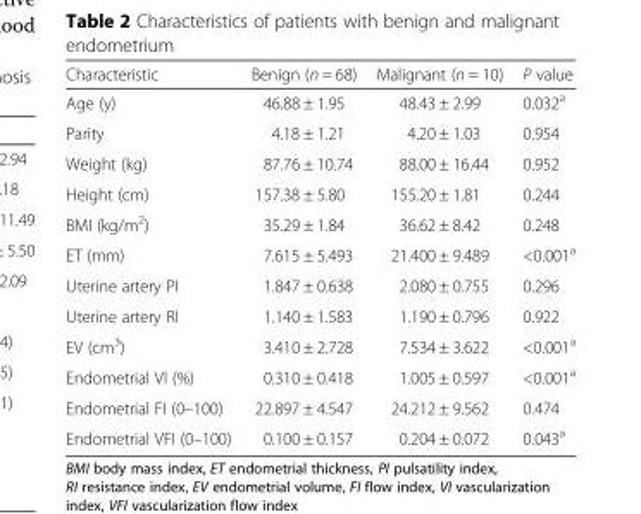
<table><thead><tr><td>Characteristic</td><td>Benign (n = 68)</td><td>Malignant (n = 10)</td><td>P value</td></tr></thead><tbody><tr><td>Age (y)</td><td>46.88 ± 1.95</td><td>48.43 ± 2.99</td><td>0.032<sup>a</sup></td></tr><tr><td>Parity</td><td>4.18 ± 1.21</td><td>4.20 ± 1.03</td><td>0.954</td></tr><tr><td>Weight (kg)</td><td>87.76 ± 10.74</td><td>88.00 ± 16.44</td><td>0.952</td></tr><tr><td>Height (cm)</td><td>157.38 ± 5.80</td><td>155.20 ± 1.81</td><td>0.244</td></tr><tr><td>BMI (kg/m<sup>2</sup>)</td><td>35.29 ± 1.84</td><td>36.62 ± 8.42</td><td>0.248</td></tr><tr><td>ET (mm)</td><td>7.615 ± 5.493</td><td>21.400 ± 9.489</td><td>&lt;0.001<sup>a</sup></td></tr><tr><td>Uterine artery PI</td><td>1.847 ± 0.638</td><td>2.080 ± 0.755</td><td>0.296</td></tr><tr><td>Uterine artery RI</td><td>1.140 ± 1.583</td><td>1.190 ± 0.796</td><td>0.922</td></tr><tr><td>EV (cm<sup>3</sup>)</td><td>3.410 ± 2.728</td><td>7.534 ± 3.622</td><td>&lt;0.001<sup>a</sup></td></tr><tr><td>Endometrial VI (%)</td><td>0.310 ± 0.418</td><td>1.005 ± 0.597</td><td>&lt;0.001<sup>a</sup></td></tr><tr><td>Endometrial FI (0–100)</td><td>22.897 ± 4.547</td><td>24.212 ± 9.562</td><td>0.474</td></tr><tr><td>Endometrial VFI (0–100)</td><td>0.100 ± 0.157</td><td>0.204 ± 0.072</td><td>0.043<sup>a</sup></td></tr></tbody></table>